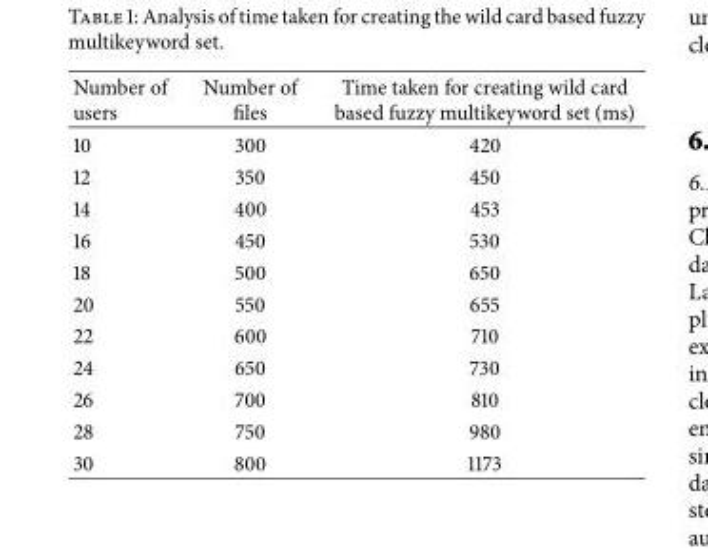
<table><thead><tr><td>Number of users</td><td>Number of files</td><td>Time taken for creating wild card based fuzzy multikeyword set (ms)</td></tr></thead><tbody><tr><td>10</td><td>300</td><td>420</td></tr><tr><td>12</td><td>350</td><td>450</td></tr><tr><td>14</td><td>400</td><td>453</td></tr><tr><td>16</td><td>450</td><td>530</td></tr><tr><td>18</td><td>500</td><td>650</td></tr><tr><td>20</td><td>550</td><td>655</td></tr><tr><td>22</td><td>600</td><td>710</td></tr><tr><td>24</td><td>650</td><td>730</td></tr><tr><td>26</td><td>700</td><td>810</td></tr><tr><td>28</td><td>750</td><td>980</td></tr><tr><td>30</td><td>800</td><td>1173</td></tr></tbody></table>